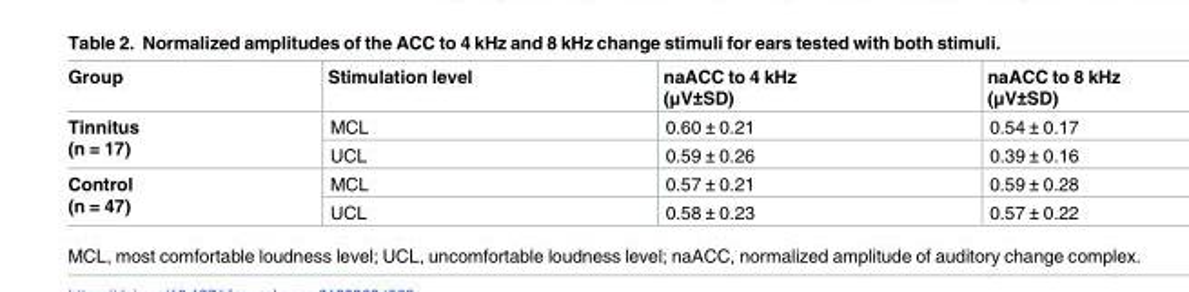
<table><thead><tr><td>Group</td><td>Stimulation level</td><td>naACC to 4 kHz (μV±SD)</td><td>naACC to 8 kHz (μV±SD)</td></tr></thead><tbody><tr><td rowspan="2">Tinnitus (n = 17)</td><td>MCL</td><td>0.60 ± 0.21</td><td>0.54 ± 0.17</td></tr><tr><td>UCL</td><td>0.59 ± 0.26</td><td>0.39 ± 0.16</td></tr><tr><td rowspan="2">Control (n = 47)</td><td>MCL</td><td>0.57 ± 0.21</td><td>0.59 ± 0.28</td></tr><tr><td>UCL</td><td>0.58 ± 0.23</td><td>0.57 ± 0.22</td></tr></tbody></table>